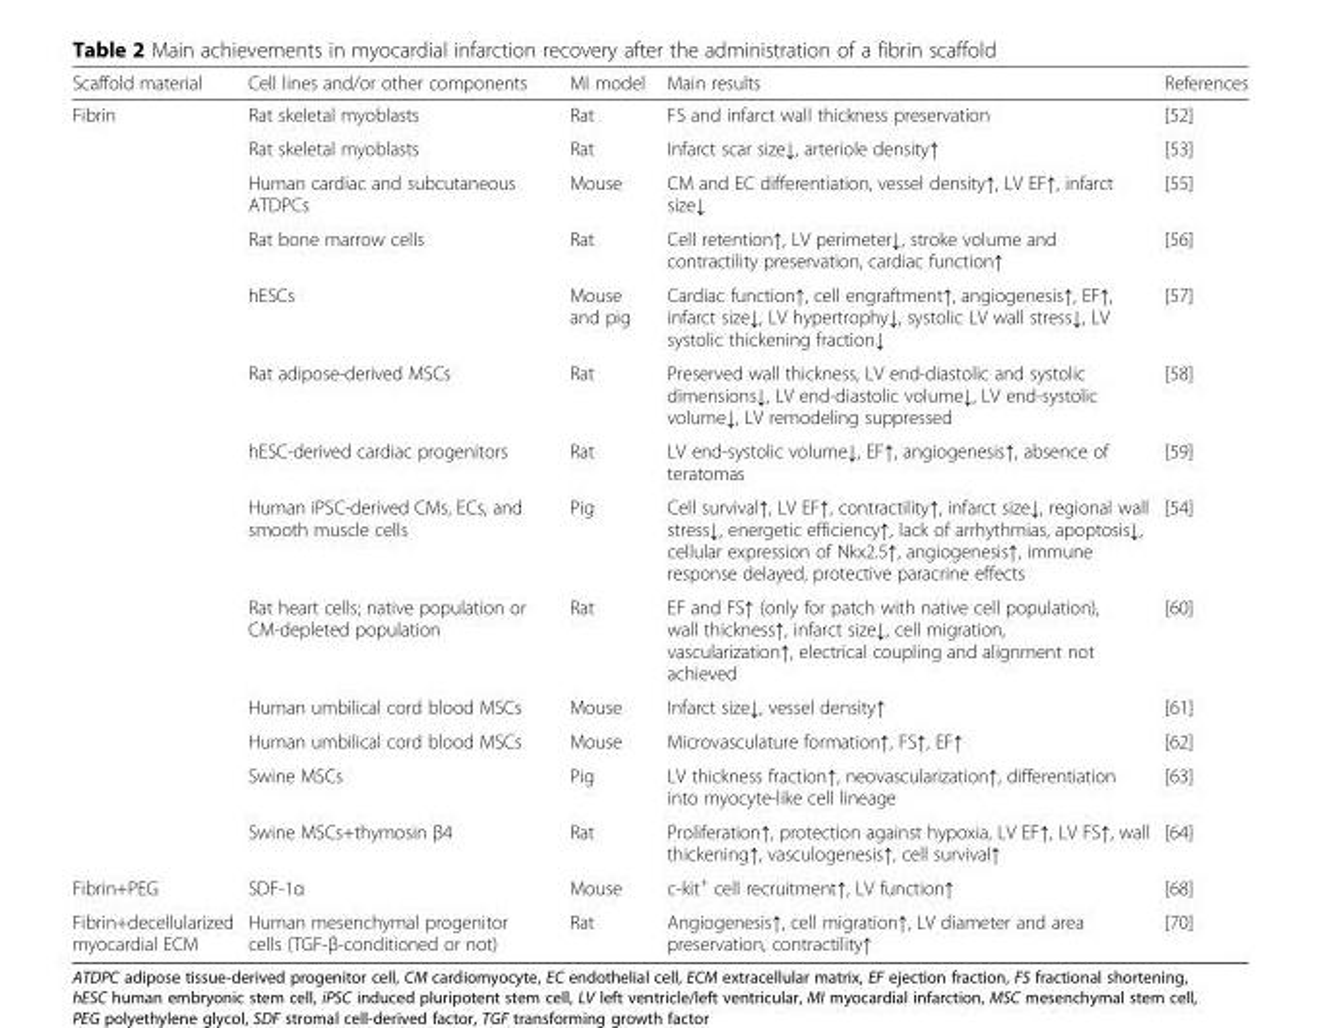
<table><thead><tr><td>Scaffold material</td><td>Cell lines and/or other components</td><td>MI model</td><td>Main results</td><td>References</td></tr></thead><tbody><tr><td rowspan="13">Fibrin</td><td>Rat skeletal myoblasts</td><td>Rat</td><td>FS and infarct wall thickness preservation</td><td>[52]</td></tr><tr><td>Rat skeletal myoblasts</td><td>Rat</td><td>Infarct scar size↓, arteriole density↑</td><td>[53]</td></tr><tr><td>Human cardiac and subcutaneous ATDPCs</td><td>Mouse</td><td>CM and EC differentiation, vessel density↑, LV EF↑, infarct size↓</td><td>[55]</td></tr><tr><td>Rat bone marrow cells</td><td>Rat</td><td>Cell retention↑, LV perimeter↓, stroke volume and contractility preservation, cardiac function↑</td><td>[56]</td></tr><tr><td>hESCs</td><td>Mouse and pig</td><td>Cardiac function↑, cell engraftment↑, angiogenesis↑, EF↑, infarct size↓, LV hypertrophy↓, systolic LV wall stress↓, LV systolic thickening fraction↓</td><td>[57]</td></tr><tr><td>Rat adipose-derived MSCs</td><td>Rat</td><td>Preserved wall thickness, LV end-diastolic and systolic dimensions↓, LV end-diastolic volume↓, LV end-systolic volume↓, LV remodeling suppressed</td><td>[58]</td></tr><tr><td>hESC-derived cardiac progenitors</td><td>Rat</td><td>LV end-systolic volume↓, EF↑, angiogenesis↑, absence of teratomas</td><td>[59]</td></tr><tr><td>Human iPSC-derived CMs, ECs, and smooth muscle cells</td><td>Pig</td><td>Cell survival↑, LV EF↑, contractility↑, infarct size↓, regional wall stress↓, energetic efficiency↑, lack of arrhythmias, apoptosis↓, cellular expression of Nkx2.5↑, angiogenesis↑, immune response delayed, protective paracrine effects</td><td>[54]</td></tr><tr><td>Rat heart cells; native population or CM-depleted population</td><td>Rat</td><td>EF and FS↑ (only for patch with native cell population), wall thickness↑, infarct size↓, cell migration, vascularization↑, electrical coupling and alignment not achieved</td><td>[60]</td></tr><tr><td>Human umbilical cord blood MSCs</td><td>Mouse</td><td>Infarct size↓, vessel density↑</td><td>[61]</td></tr><tr><td>Human umbilical cord blood MSCs</td><td>Mouse</td><td>Microvasculature formation↑, FS↑, EF↑</td><td>[62]</td></tr><tr><td>Swine MSCs</td><td>Pig</td><td>LV thickness fraction↑, neovascularization↑, differentiation into myocyte-like cell lineage</td><td>[63]</td></tr><tr><td>Swine MSCs+thymosin β4</td><td>Rat</td><td>Proliferation↑, protection against hypoxia, LV EF↑, LV FS↑, wall thickening↑, vasculogenesis↑, cell survival↑</td><td>[64]</td></tr><tr><td>Fibrin+PEG</td><td>SDF-1α</td><td>Mouse</td><td>c-kit<sup>+</sup> cell recruitment↑, LV function↑</td><td>[68]</td></tr><tr><td>Fibrin+decellularized myocardial ECM</td><td>Human mesenchymal progenitor cells (TGF-β-conditioned or not)</td><td>Rat</td><td>Angiogenesis↑, cell migration↑, LV diameter and area preservation, contractility↑</td><td>[70]</td></tr></tbody></table>